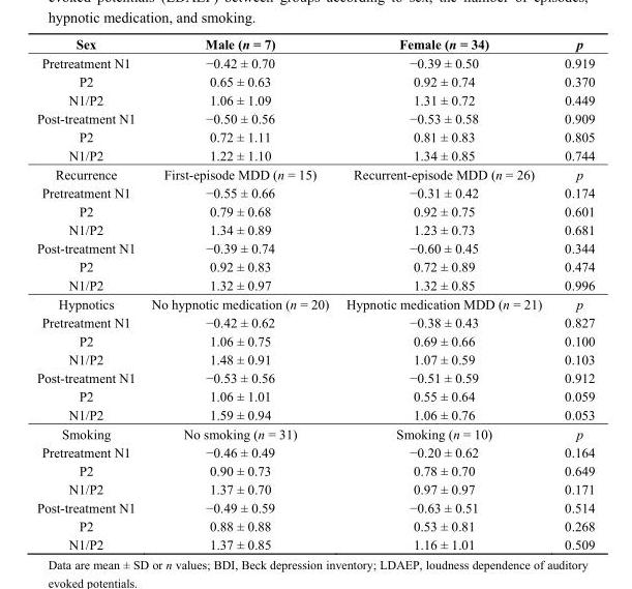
<table><thead><tr><td>Sex</td><td>Male (n = 7)</td><td>Female (n = 34)</td><td>p</td></tr></thead><tbody><tr><td>Pretreatment N1</td><td>−0.42 ± 0.70</td><td>−0.39 ± 0.50</td><td>0.919</td></tr><tr><td>P2</td><td>0.65 ± 0.63</td><td>0.92 ± 0.74</td><td>0.370</td></tr><tr><td>N1/P2</td><td>1.06 ± 1.09</td><td>1.31 ± 0.72</td><td>0.449</td></tr><tr><td>Post-treatment N1</td><td>−0.50 ± 0.56</td><td>−0.53 ± 0.58</td><td>0.909</td></tr><tr><td>P2</td><td>0.72 ± 1.11</td><td>0.81 ± 0.83</td><td>0.805</td></tr><tr><td>N1/P2</td><td>1.22 ± 1.10</td><td>1.34 ± 0.85</td><td>0.744</td></tr><tr><td>Recurrence</td><td>First-episode MDD (n = 15)</td><td>Recurrent-episode MDD (n = 26)</td><td>p</td></tr><tr><td>Pretreatment N1</td><td>−0.55 ± 0.66</td><td>−0.31 ± 0.42</td><td>0.174</td></tr><tr><td>P2</td><td>0.79 ± 0.68</td><td>0.92 ± 0.75</td><td>0.601</td></tr><tr><td>N1/P2</td><td>1.34 ± 0.89</td><td>1.23 ± 0.73</td><td>0.681</td></tr><tr><td>Post-treatment N1</td><td>−0.39 ± 0.74</td><td>−0.60 ± 0.45</td><td>0.344</td></tr><tr><td>P2</td><td>0.92 ± 0.83</td><td>0.72 ± 0.89</td><td>0.474</td></tr><tr><td>N1/P2</td><td>1.32 ± 0.97</td><td>1.32 ± 0.85</td><td>0.996</td></tr><tr><td>Hypnotics</td><td>No hypnotic medication (n = 20)</td><td>Hypnotic medication MDD (n = 21)</td><td>p</td></tr><tr><td>Pretreatment N1</td><td>−0.42 ± 0.62</td><td>−0.38 ± 0.43</td><td>0.827</td></tr><tr><td>P2</td><td>1.06 ± 0.75</td><td>0.69 ± 0.66</td><td>0.100</td></tr><tr><td>N1/P2</td><td>1.48 ± 0.91</td><td>1.07 ± 0.59</td><td>0.103</td></tr><tr><td>Post-treatment N1</td><td>−0.53 ± 0.56</td><td>−0.51 ± 0.59</td><td>0.912</td></tr><tr><td>P2</td><td>1.06 ± 1.01</td><td>0.55 ± 0.64</td><td>0.059</td></tr><tr><td>N1/P2</td><td>1.59 ± 0.94</td><td>1.06 ± 0.76</td><td>0.053</td></tr><tr><td>Smoking</td><td>No smoking (n = 31)</td><td>Smoking (n = 10)</td><td>p</td></tr><tr><td>Pretreatment N1</td><td>−0.46 ± 0.49</td><td>−0.20 ± 0.62</td><td>0.164</td></tr><tr><td>P2</td><td>0.90 ± 0.73</td><td>0.78 ± 0.70</td><td>0.649</td></tr><tr><td>N1/P2</td><td>1.37 ± 0.70</td><td>0.97 ± 0.97</td><td>0.171</td></tr><tr><td>Post-treatment N1</td><td>−0.49 ± 0.59</td><td>−0.63 ± 0.51</td><td>0.514</td></tr><tr><td>P2</td><td>0.88 ± 0.88</td><td>0.53 ± 0.81</td><td>0.268</td></tr><tr><td>N1/P2</td><td>1.37 ± 0.85</td><td>1.16 ± 1.01</td><td>0.509</td></tr></tbody></table>